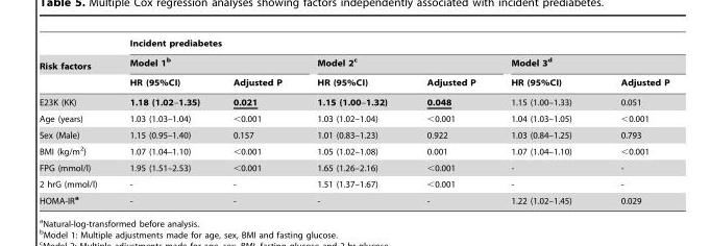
<table><thead><tr><td rowspan="3">Risk factors</td><td colspan="6">Incident prediabetes</td></tr><tr><td colspan="2">Model 1<sup>b</sup></td><td colspan="2">Model 2<sup>c</sup></td><td colspan="2">Model 3<sup>d</sup></td></tr><tr><td>HR (95%CI)</td><td>Adjusted P</td><td>HR (95%CI)</td><td>Adjusted P</td><td>HR (95%CI)</td><td>Adjusted P</td></tr></thead><tbody><tr><td>E23K (KK)</td><td>1.18 (1.02–1.35)</td><td>0.021</td><td>1.15 (1.00–1.32)</td><td>0.048</td><td>1.15 (1.00–1.33)</td><td>0.051</td></tr><tr><td>Age (years)</td><td>1.03 (1.03–1.04)</td><td>&lt;0.001</td><td>1.03 (1.02–1.04)</td><td>&lt;0.001</td><td>1.04 (1.03–1.05)</td><td>&lt;0.001</td></tr><tr><td>Sex (Male)</td><td>1.15 (0.95–1.40)</td><td>0.157</td><td>1.01 (0.83–1.23)</td><td>0.922</td><td>1.03 (0.84–1.25)</td><td>0.793</td></tr><tr><td>BMI (kg/m<sup>2</sup>)</td><td>1.07 (1.04–1.10)</td><td>&lt;0.001</td><td>1.05 (1.02–1.08)</td><td>0.001</td><td>1.07 (1.04–1.10)</td><td>&lt;0.001</td></tr><tr><td>FPG (mmol/l)</td><td>1.95 (1.51–2.53)</td><td>&lt;0.001</td><td>1.65 (1.26–2.16)</td><td>&lt;0.001</td><td>-</td><td>-</td></tr><tr><td>2 hrG (mmol/l)</td><td>-</td><td>-</td><td>1.51 (1.37–1.67)</td><td>&lt;0.001</td><td>-</td><td>-</td></tr><tr><td>HOMA-IR<sup>a</sup></td><td>-</td><td>-</td><td>-</td><td>-</td><td>1.22 (1.02–1.45)</td><td>0.029</td></tr></tbody></table>